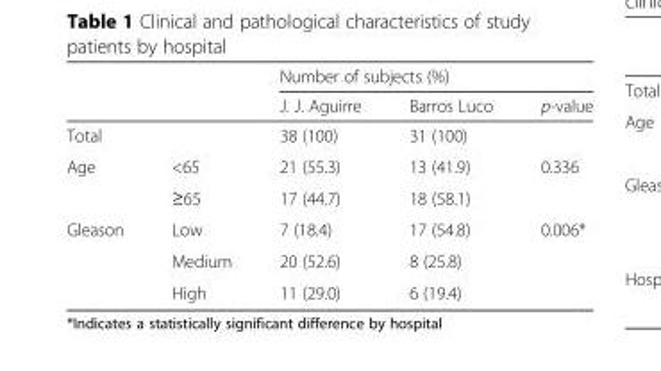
<table><thead><tr><td rowspan="2"></td><td rowspan="2"></td><td colspan="3">Number of subjects (%)</td></tr><tr><td>J. J. Aguirre</td><td>Barros Luco</td><td>p-value</td></tr></thead><tbody><tr><td>Total</td><td></td><td>38 (100)</td><td>31 (100)</td><td></td></tr><tr><td rowspan="2">Age</td><td>&lt;65</td><td>21 (55.3)</td><td>13 (41.9)</td><td>0.336</td></tr><tr><td>≥65</td><td>17 (44.7)</td><td>18 (58.1)</td><td></td></tr><tr><td rowspan="3">Gleason</td><td>Low</td><td>7 (18.4)</td><td>17 (54.8)</td><td>0.006*</td></tr><tr><td>Medium</td><td>20 (52.6)</td><td>8 (25.8)</td><td></td></tr><tr><td>High</td><td>11 (29.0)</td><td>6 (19.4)</td><td></td></tr></tbody></table>